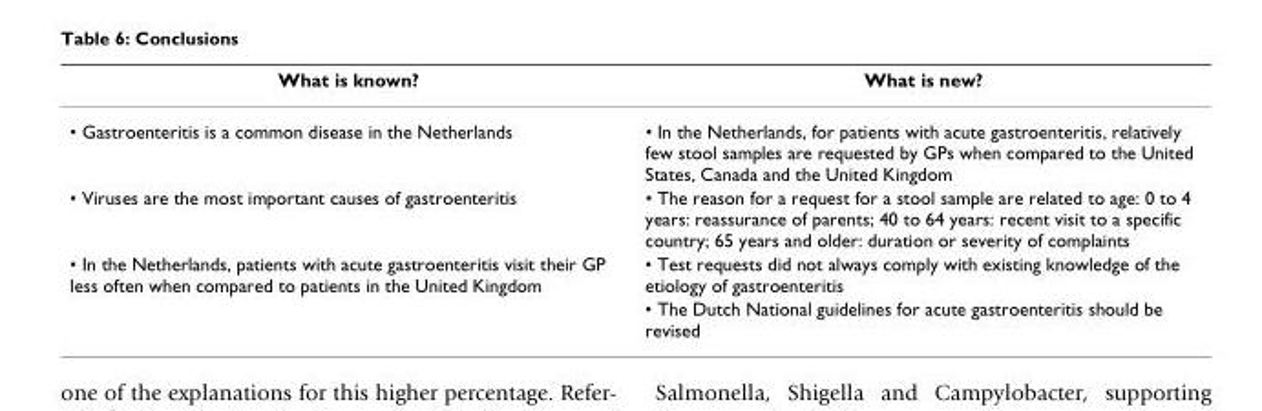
<table><thead><tr><td>What is known?</td><td>What is new?</td></tr></thead><tbody><tr><td>• Gastroenteritis is a common disease in the Netherlands</td><td>• In the Netherlands, for patients with acute gastroenteritis, relatively few stool samples are requested by GPs when compared to the United States, Canada and the United Kingdom</td></tr><tr><td>• Viruses are the most important causes of gastroenteritis</td><td>• The reason for a request for a stool sample are related to age: 0 to 4 years: reassurance of parents; 40 to 64 years: recent visit to a specific country; 65 years and older: duration or severity of complaints</td></tr><tr><td rowspan="2">• In the Netherlands, patients with acute gastroenteritis visit their GP less often when compared to patients in the United Kingdom</td><td>• Test requests did not always comply with existing knowledge of the etiology of gastroenteritis</td></tr><tr><td>• The Dutch National guidelines for acute gastroenteritis should be revised</td></tr></tbody></table>